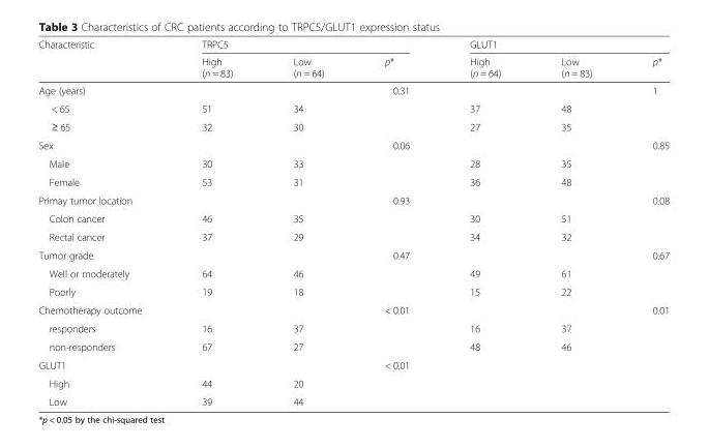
<table><thead><tr><td rowspan="2">Characteristic</td><td colspan="3">TRPC5</td><td colspan="3">GLUT1</td></tr><tr><td>High (n = 83)</td><td>Low (n = 64)</td><td>p*</td><td>High (n = 64)</td><td>Low (n = 83)</td><td>p*</td></tr></thead><tbody><tr><td>Age (years)</td><td></td><td></td><td>0.31</td><td></td><td></td><td>1</td></tr><tr><td>&lt; 65</td><td>51</td><td>34</td><td></td><td>37</td><td>48</td><td></td></tr><tr><td>≥ 65</td><td>32</td><td>30</td><td></td><td>27</td><td>35</td><td></td></tr><tr><td>Sex</td><td></td><td></td><td>0.06</td><td></td><td></td><td>0.85</td></tr><tr><td>Male</td><td>30</td><td>33</td><td></td><td>28</td><td>35</td><td></td></tr><tr><td>Female</td><td>53</td><td>31</td><td></td><td>36</td><td>48</td><td></td></tr><tr><td>Primay tumor location</td><td></td><td></td><td>0.93</td><td></td><td></td><td>0.08</td></tr><tr><td>Colon cancer</td><td>46</td><td>35</td><td></td><td>30</td><td>51</td><td></td></tr><tr><td>Rectal cancer</td><td>37</td><td>29</td><td></td><td>34</td><td>32</td><td></td></tr><tr><td>Tumor grade</td><td></td><td></td><td>0.47</td><td></td><td></td><td>0.67</td></tr><tr><td>Well or moderately</td><td>64</td><td>46</td><td></td><td>49</td><td>61</td><td></td></tr><tr><td>Poorly</td><td>19</td><td>18</td><td></td><td>15</td><td>22</td><td></td></tr><tr><td>Chemotherapy outcome</td><td></td><td></td><td>&lt; 0.01</td><td></td><td></td><td>0.01</td></tr><tr><td>responders</td><td>16</td><td>37</td><td></td><td>16</td><td>37</td><td></td></tr><tr><td>non-responders</td><td>67</td><td>27</td><td></td><td>48</td><td>46</td><td></td></tr><tr><td>GLUT1</td><td></td><td></td><td>&lt; 0.01</td><td></td><td></td><td></td></tr><tr><td>High</td><td>44</td><td>20</td><td></td><td></td><td></td><td></td></tr><tr><td>Low</td><td>39</td><td>44</td><td></td><td></td><td></td><td></td></tr></tbody></table>